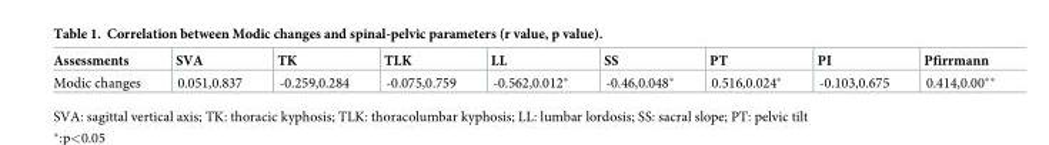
<table><thead><tr><td>Assessments</td><td>SVA</td><td>TK</td><td>TLK</td><td>LL</td><td>SS</td><td>PT</td><td>PI</td><td>Pfirrmann</td></tr></thead><tbody><tr><td>Modic changes</td><td>0.051,0.837</td><td>-0.259,0.284</td><td>-0.075,0.759</td><td>-0.562,0.012*</td><td>-0.46,0.048*</td><td>0.516,0.024*</td><td>-0.103,0.675</td><td>0.414,0.00**</td></tr></tbody></table>